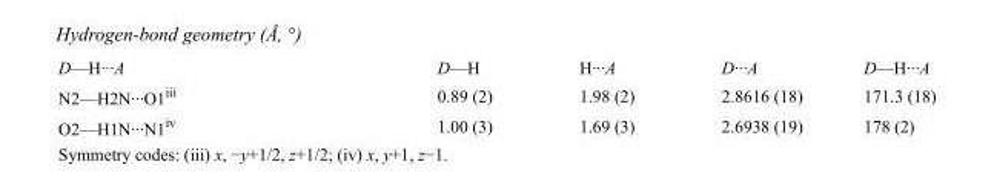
<table><tbody><tr><td>D—H···A</td><td>D—H</td><td>H···A</td><td>D···A</td><td>D—H···A</td></tr><tr><td>N2—H2N···O1<sup>iii</sup></td><td>0.89 (2)</td><td>1.98 (2)</td><td>2.8616 (18)</td><td>171.3 (18)</td></tr><tr><td>O2—H1N···N1<sup>iv</sup></td><td>1.00 (3)</td><td>1.69 (3)</td><td>2.6938 (19)</td><td>178 (2)</td></tr></tbody></table>